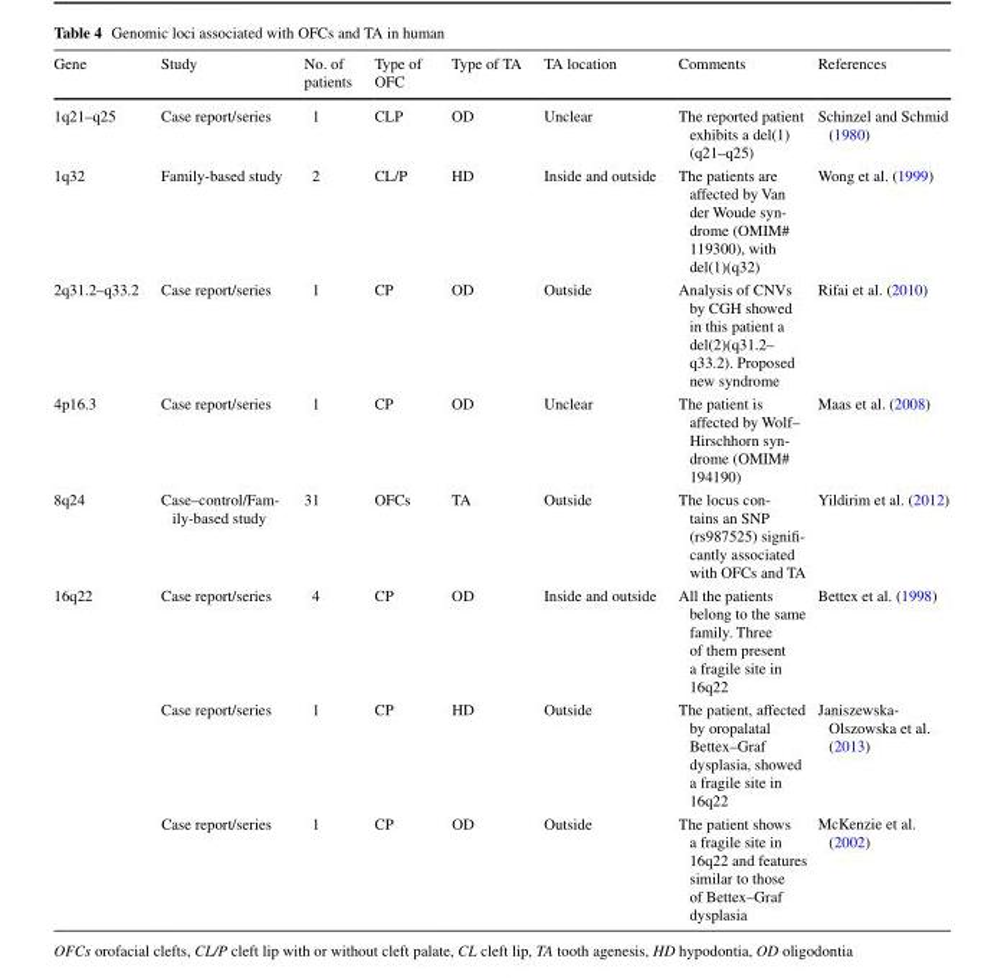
<table><thead><tr><td>Gene</td><td>Study</td><td>No. of patients</td><td>Type of OFC</td><td>Type of TA</td><td>TA location</td><td>Comments</td><td>References</td></tr></thead><tbody><tr><td>1q21–q25</td><td>Case report/series</td><td>1</td><td>CLP</td><td>OD</td><td>Unclear</td><td>The reported patient exhibits a del(1) (q21–q25)</td><td>Schinzel and Schmid (1980)</td></tr><tr><td>1q32</td><td>Family-based study</td><td>2</td><td>CL/P</td><td>HD</td><td>Inside and outside</td><td>The patients are affected by Van der Woude syn- drome (OMIM# 119300), with del(1)(q32)</td><td>Wong et al. (1999)</td></tr><tr><td>2q31.2–q33.2</td><td>Case report/series</td><td>1</td><td>CP</td><td>OD</td><td>Outside</td><td>Analysis of CNVs by CGH showed in this patient a del(2)(q31.2– q33.2). Proposed new syndrome</td><td>Rifai et al. (2010)</td></tr><tr><td>4p16.3</td><td>Case report/series</td><td>1</td><td>CP</td><td>OD</td><td>Unclear</td><td>The patient is affected by Wolf– Hirschhorn syn- drome (OMIM# 194190)</td><td>Maas et al. (2008)</td></tr><tr><td>8q24</td><td>Case–control/Fam- ily-based study</td><td>31</td><td>OFCs</td><td>TA</td><td>Outside</td><td>The locus con- tains an SNP (rs987525) signifi- cantly associated with OFCs and TA</td><td>Yildirim et al. (2012)</td></tr><tr><td rowspan="3">16q22</td><td>Case report/series</td><td>4</td><td>CP</td><td>OD</td><td>Inside and outside</td><td>All the patients belong to the same family. Three of them present a fragile site in 16q22</td><td>Bettex et al. (1998)</td></tr><tr><td>Case report/series</td><td>1</td><td>CP</td><td>HD</td><td>Outside</td><td>The patient, affected by oropalatal Bettex–Graf dysplasia, showed a fragile site in 16q22</td><td>Janiszewska- Olszowska et al. (2013)</td></tr><tr><td>Case report/series</td><td>1</td><td>CP</td><td>OD</td><td>Outside</td><td>The patient shows a fragile site in 16q22 and features similar to those of Bettex–Graf dysplasia</td><td>McKenzie et al. (2002)</td></tr></tbody></table>